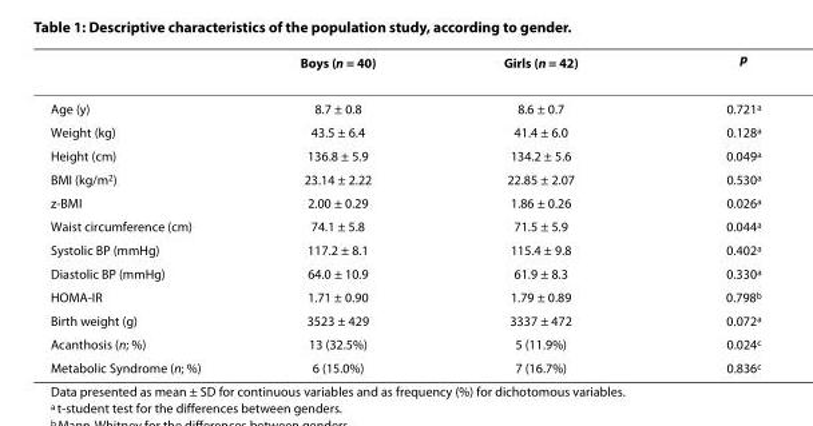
<table><thead><tr><td></td><td>Boys (n = 40)</td><td>Girls (n = 42)</td><td>p</td></tr></thead><tbody><tr><td>Age (y)</td><td>8.7 ± 0.8</td><td>8.6 ± 0.7</td><td>0.721<sup>a</sup></td></tr><tr><td>Weight (kg)</td><td>43.5 ± 6.4</td><td>41.4 ± 6.0</td><td>0.128<sup>a</sup></td></tr><tr><td>Height (cm)</td><td>136.8 ± 5.9</td><td>134.2 ± 5.6</td><td>0.049<sup>a</sup></td></tr><tr><td>BMI (kg/m<sup>2</sup>)</td><td>23.14 ± 2.22</td><td>22.85 ± 2.07</td><td>0.530<sup>a</sup></td></tr><tr><td>z-BMI</td><td>2.00 ± 0.29</td><td>1.86 ± 0.26</td><td>0.026<sup>a</sup></td></tr><tr><td>Waist circumference (cm)</td><td>74.1 ± 5.8</td><td>71.5 ± 5.9</td><td>0.044<sup>a</sup></td></tr><tr><td>Systolic BP (mmHg)</td><td>117.2 ± 8.1</td><td>115.4 ± 9.8</td><td>0.402<sup>a</sup></td></tr><tr><td>Diastolic BP (mmHg)</td><td>64.0 ± 10.9</td><td>61.9 ± 8.3</td><td>0.330<sup>a</sup></td></tr><tr><td>HOMA-IR</td><td>1.71 ± 0.90</td><td>1.79 ± 0.89</td><td>0.798<sup>b</sup></td></tr><tr><td>Birth weight (g)</td><td>3523 ± 429</td><td>3337 ± 472</td><td>0.072<sup>a</sup></td></tr><tr><td>Acanthosis (n; %)</td><td>13 (32.5%)</td><td>5 (11.9%)</td><td>0.024<sup>c</sup></td></tr><tr><td>Metabolic Syndrome (n; %)</td><td>6 (15.0%)</td><td>7 (16.7%)</td><td>0.836<sup>c</sup></td></tr></tbody></table>